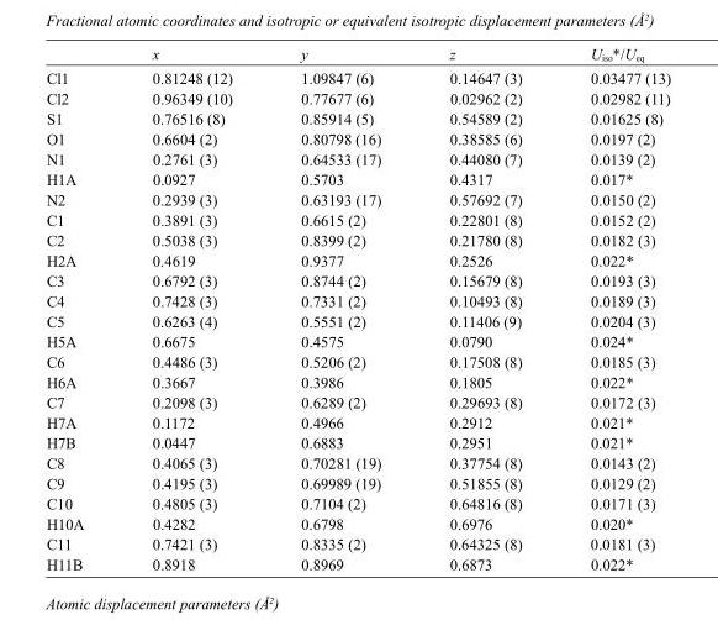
<table><thead><tr><td></td><td>x</td><td>y</td><td>z</td><td>U<sub>iso</sub>*/U<sub>eq</sub></td></tr></thead><tbody><tr><td>Cl1</td><td>0.81248 (12)</td><td>1.09847 (6)</td><td>0.14647 (3)</td><td>0.03477 (13)</td></tr><tr><td>Cl2</td><td>0.96349 (10)</td><td>0.77677 (6)</td><td>0.02962 (2)</td><td>0.02982 (11)</td></tr><tr><td>S1</td><td>0.76516 (8)</td><td>0.85914 (5)</td><td>0.54589 (2)</td><td>0.01625 (8)</td></tr><tr><td>O1</td><td>0.6604 (2)</td><td>0.80798 (16)</td><td>0.38585 (6)</td><td>0.0197 (2)</td></tr><tr><td>N1</td><td>0.2761 (3)</td><td>0.64533 (17)</td><td>0.44080 (7)</td><td>0.0139 (2)</td></tr><tr><td>H1A</td><td>0.0927</td><td>0.5703</td><td>0.4317</td><td>0.017*</td></tr><tr><td>N2</td><td>0.2939 (3)</td><td>0.63193 (17)</td><td>0.57692 (7)</td><td>0.0150 (2)</td></tr><tr><td>C1</td><td>0.3891 (3)</td><td>0.6615 (2)</td><td>0.22801 (8)</td><td>0.0152 (2)</td></tr><tr><td>C2</td><td>0.5038 (3)</td><td>0.8399 (2)</td><td>0.21780 (8)</td><td>0.0182 (3)</td></tr><tr><td>H2A</td><td>0.4619</td><td>0.9377</td><td>0.2526</td><td>0.022*</td></tr><tr><td>C3</td><td>0.6792 (3)</td><td>0.8744 (2)</td><td>0.15679 (8)</td><td>0.0193 (3)</td></tr><tr><td>C4</td><td>0.7428 (3)</td><td>0.7331 (2)</td><td>0.10493 (8)</td><td>0.0189 (3)</td></tr><tr><td>C5</td><td>0.6263 (4)</td><td>0.5551 (2)</td><td>0.11406 (9)</td><td>0.0204 (3)</td></tr><tr><td>H5A</td><td>0.6675</td><td>0.4575</td><td>0.0790</td><td>0.024*</td></tr><tr><td>C6</td><td>0.4486 (3)</td><td>0.5206 (2)</td><td>0.17508 (8)</td><td>0.0185 (3)</td></tr><tr><td>H6A</td><td>0.3667</td><td>0.3986</td><td>0.1805</td><td>0.022*</td></tr><tr><td>C7</td><td>0.2098 (3)</td><td>0.6289 (2)</td><td>0.29693 (8)</td><td>0.0172 (3)</td></tr><tr><td>H7A</td><td>0.1172</td><td>0.4966</td><td>0.2912</td><td>0.021*</td></tr><tr><td>H7B</td><td>0.0447</td><td>0.6883</td><td>0.2951</td><td>0.021*</td></tr><tr><td>C8</td><td>0.4065 (3)</td><td>0.70281 (19)</td><td>0.37754 (8)</td><td>0.0143 (2)</td></tr><tr><td>C9</td><td>0.4195 (3)</td><td>0.69989 (19)</td><td>0.51855 (8)</td><td>0.0129 (2)</td></tr><tr><td>C10</td><td>0.4805 (3)</td><td>0.7104 (2)</td><td>0.64816 (8)</td><td>0.0171 (3)</td></tr><tr><td>H10A</td><td>0.4282</td><td>0.6798</td><td>0.6976</td><td>0.020*</td></tr><tr><td>C11</td><td>0.7421 (3)</td><td>0.8335 (2)</td><td>0.64325 (8)</td><td>0.0181 (3)</td></tr><tr><td>H11B</td><td>0.8918</td><td>0.8969</td><td>0.6873</td><td>0.022*</td></tr></tbody></table>